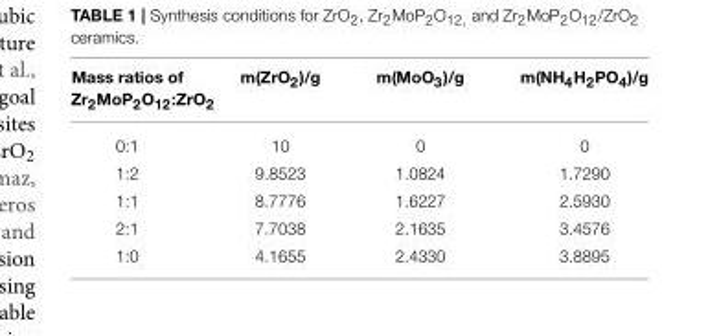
<table><thead><tr><td>Mass ratios of Zr<sub>2</sub>MoP<sub>2</sub>O<sub>12</sub>:ZrO<sub>2</sub></td><td>m(ZrO<sub>2</sub>)/g</td><td>m(MoO<sub>3</sub>)/g</td><td>m(NH<sub>4</sub>H<sub>2</sub>PO<sub>4</sub>)/g</td></tr></thead><tbody><tr><td>0:1</td><td>10</td><td>0</td><td>0</td></tr><tr><td>1:2</td><td>9.8523</td><td>1.0824</td><td>1.7290</td></tr><tr><td>1:1</td><td>8.7776</td><td>1.6227</td><td>2.5930</td></tr><tr><td>2:1</td><td>7.7038</td><td>2.1635</td><td>3.4576</td></tr><tr><td>1:0</td><td>4.1655</td><td>2.4330</td><td>3.8895</td></tr></tbody></table>